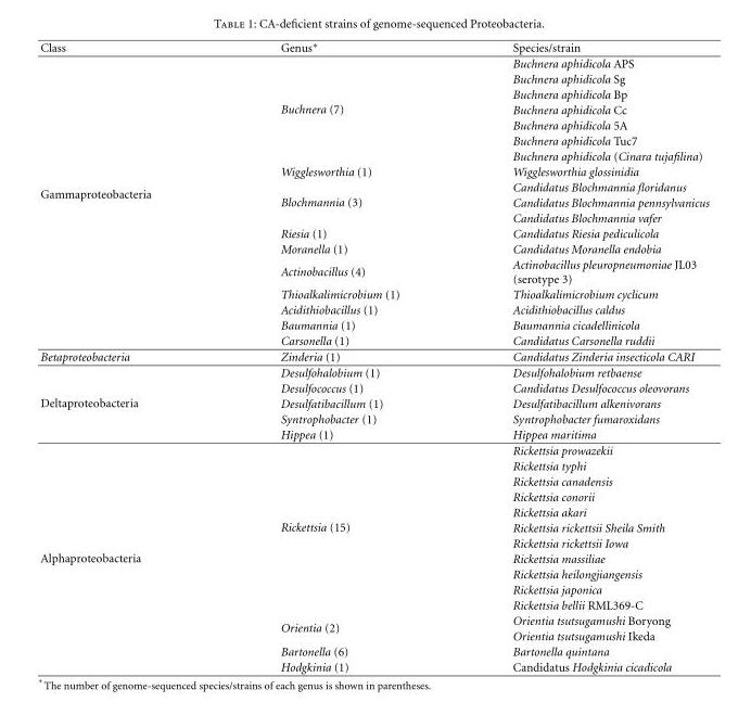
<table><thead><tr><td>Class</td><td>Genus∗</td><td>Species/strain</td></tr></thead><tbody><tr><td rowspan="18">Gammaproteobacteria</td><td rowspan="7">Buchnera (7)</td><td>Buchnera aphidicola APS</td></tr><tr><td>Buchnera aphidicola Sg</td></tr><tr><td>Buchnera aphidicola Bp</td></tr><tr><td>Buchnera aphidicola Cc</td></tr><tr><td>Buchnera aphidicola 5A</td></tr><tr><td>Buchnera aphidicola Tuc7</td></tr><tr><td>Buchnera aphidicola (Cinara tujafilina)</td></tr><tr><td>Wigglesworthia (1)</td><td>Wigglesworthia glossinidia</td></tr><tr><td rowspan="3">Blochmannia (3)</td><td>Candidatus Blochmannia floridanus</td></tr><tr><td>Candidatus Blochmannia pennsylvanicus</td></tr><tr><td>Candidatus Blochmannia vafer</td></tr><tr><td>Riesia (1)</td><td>Candidatus Riesia pediculicola</td></tr><tr><td>Moranella (1)</td><td>Candidatus Moranella endobia</td></tr><tr><td>Actinobacillus (4)</td><td>Actinobacillus pleuropneumoniae JL03 (serotype 3)</td></tr><tr><td>Thioalkalimicrobium (1)</td><td>Thioalkalimicrobium cyclicum</td></tr><tr><td>Acidithiobacillus (1)</td><td>Acidithiobacillus caldus</td></tr><tr><td>Baumannia (1)</td><td>Baumannia cicadellinicola</td></tr><tr><td>Carsonella (1)</td><td>Candidatus Carsonella ruddii</td></tr><tr><td>Betaproteobacteria</td><td>Zinderia (1)</td><td>Candidatus Zinderia insecticola CARI</td></tr><tr><td rowspan="5">Deltaproteobacteria</td><td>Desulfohalobium (1)</td><td>Desulfohalobium retbaense</td></tr><tr><td>Desulfococcus (1)</td><td>Candidatus Desulfococcus oleovorans</td></tr><tr><td>Desulfatibacillum (1)</td><td>Desulfatibacillum alkenivorans</td></tr><tr><td>Syntrophobacter (1)</td><td>Syntrophobacter fumaroxidans</td></tr><tr><td>Hippea (1)</td><td>Hippea maritima</td></tr><tr><td rowspan="15">Alphaproteobacteria</td><td rowspan="11">Rickettsia (15)</td><td>Rickettsia prowazekii</td></tr><tr><td>Rickettsia typhi</td></tr><tr><td>Rickettsia canadensis</td></tr><tr><td>Rickettsia conorii</td></tr><tr><td>Rickettsia akari</td></tr><tr><td>Rickettsia rickettsii Sheila Smith</td></tr><tr><td>Rickettsia rickettsii Iowa</td></tr><tr><td>Rickettsia massiliae</td></tr><tr><td>Rickettsia heilongjiangensis</td></tr><tr><td>Rickettsia japonica</td></tr><tr><td>Rickettsia bellii RML369-C</td></tr><tr><td rowspan="2">Orientia (2)</td><td>Orientia tsutsugamushi Boryong</td></tr><tr><td>Orientia tsutsugamushi Ikeda</td></tr><tr><td>Bartonella (6)</td><td>Bartonella quintana</td></tr><tr><td>Hodgkinia (1)</td><td>Candidatus Hodgkinia cicadicola</td></tr></tbody></table>